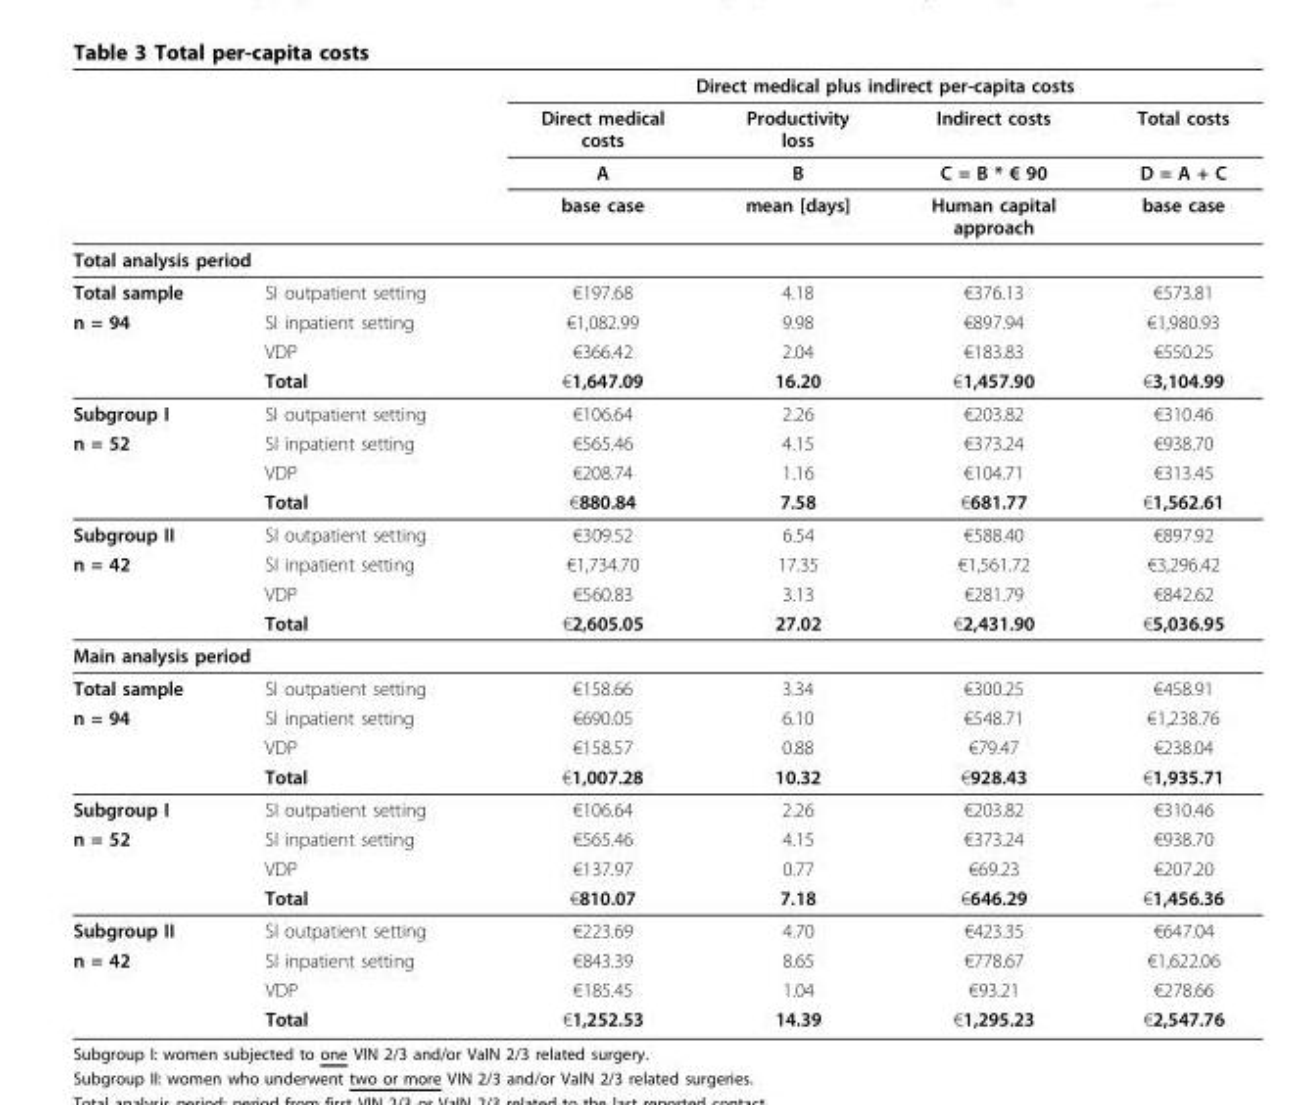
<table><thead><tr><td rowspan="4"></td><td rowspan="4"></td><td colspan="4">Direct medical plus indirect per-capita costs</td></tr><tr><td rowspan="3">Direct medical costs A base case</td><td rowspan="3">Productivity loss B mean [days]</td><td rowspan="3">Indirect costs C = B * € 90 Human capital approach</td><td rowspan="3">Total costs D = A + C base case</td></tr><tr></tr><tr></tr></thead><tbody><tr><td colspan="6">Total analysis period</td></tr><tr><td>Total sample</td><td>SI outpatient setting</td><td>€197.68</td><td>4.18</td><td>€376.13</td><td>€573.81</td></tr><tr><td rowspan="3">n = 94</td><td>SI inpatient setting</td><td>€1,082.99</td><td>9.98</td><td>€897.94</td><td>€1,980.93</td></tr><tr><td>VDP</td><td>€366.42</td><td>2.04</td><td>€183.83</td><td>€550.25</td></tr><tr><td>Total</td><td>€1,647.09</td><td>16.20</td><td>€1,457.90</td><td>€3,104.99</td></tr><tr><td>Subgroup I</td><td>SI outpatient setting</td><td>€106.64</td><td>2.26</td><td>€203.82</td><td>€310.46</td></tr><tr><td rowspan="3">n = 52</td><td>SI inpatient setting</td><td>€565.46</td><td>4.15</td><td>€373.24</td><td>€938.70</td></tr><tr><td>VDP</td><td>€208.74</td><td>1.16</td><td>€104.71</td><td>€313.45</td></tr><tr><td>Total</td><td>€880.84</td><td>7.58</td><td>€681.77</td><td>€1,562.61</td></tr><tr><td>Subgroup II</td><td>SI outpatient setting</td><td>€309.52</td><td>6.54</td><td>€588.40</td><td>€897.92</td></tr><tr><td rowspan="3">n = 42</td><td>SI inpatient setting</td><td>€1,734.70</td><td>17.35</td><td>€1,561.72</td><td>€3,296.42</td></tr><tr><td>VDP</td><td>€560.83</td><td>3.13</td><td>€281.79</td><td>€842.62</td></tr><tr><td>Total</td><td>€2,605.05</td><td>27.02</td><td>€2,431.90</td><td>€5,036.95</td></tr><tr><td colspan="6">Main analysis period</td></tr><tr><td>Total sample</td><td>SI outpatient setting</td><td>€158.66</td><td>3.34</td><td>€300.25</td><td>€458.91</td></tr><tr><td rowspan="3">n = 94</td><td>SI inpatient setting</td><td>€690.05</td><td>6.10</td><td>€548.71</td><td>€1,238.76</td></tr><tr><td>VDP</td><td>€158.57</td><td>0.88</td><td>€79.47</td><td>€238.04</td></tr><tr><td>Total</td><td>€1,007.28</td><td>10.32</td><td>€928.43</td><td>€1,935.71</td></tr><tr><td>Subgroup I</td><td>SI outpatient setting</td><td>€106.64</td><td>2.26</td><td>€203.82</td><td>€310.46</td></tr><tr><td rowspan="3">n = 52</td><td>SI inpatient setting</td><td>€565.46</td><td>4.15</td><td>€373.24</td><td>€938.70</td></tr><tr><td>VDP</td><td>€137.97</td><td>0.77</td><td>€69.23</td><td>€207.20</td></tr><tr><td>Total</td><td>€810.07</td><td>7.18</td><td>€646.29</td><td>€1,456.36</td></tr><tr><td>Subgroup II</td><td>SI outpatient setting</td><td>€223.69</td><td>4.70</td><td>€423.35</td><td>€647.04</td></tr><tr><td rowspan="3">n = 42</td><td>SI inpatient setting</td><td>€843.39</td><td>8.65</td><td>€778.67</td><td>€1,622.06</td></tr><tr><td>VDP</td><td>€185.45</td><td>1.04</td><td>€93.21</td><td>€278.66</td></tr><tr><td>Total</td><td>€1,252.53</td><td>14.39</td><td>€1,295.23</td><td>€2,547.76</td></tr></tbody></table>